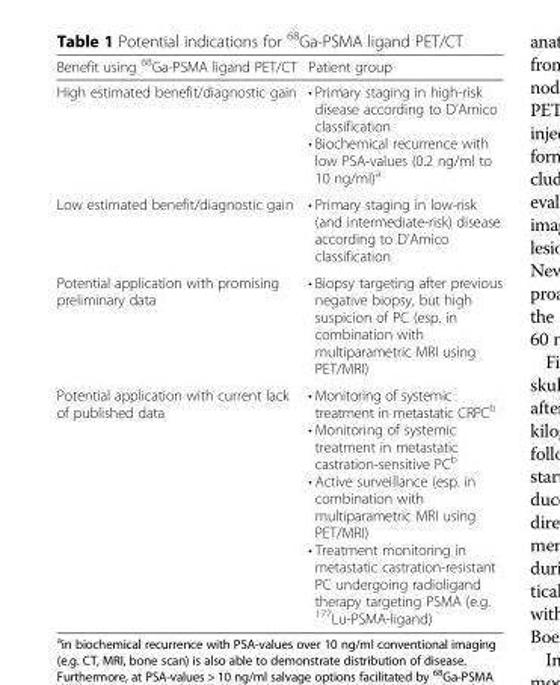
<table><thead><tr><td>Benefit using <sup>68</sup>Ga-PSMA ligand PET/CT</td><td>Patient group</td></tr></thead><tbody><tr><td>High estimated benefit/diagnostic gain</td><td>• Primary staging in high-risk disease according to D’Amico classification • Biochemical recurrence with low PSA-values (0.2 ng/ml to 10 ng/ml)<sup>a</sup></td></tr><tr><td>Low estimated benefit/diagnostic gain</td><td>• Primary staging in low-risk (and intermediate-risk) disease according to D’Amico classification</td></tr><tr><td>Potential application with promising preliminary data</td><td>• Biopsy targeting after previous negative biopsy, but high suspicion of PC (esp. in combination with multiparametric MRI using PET/MRI)</td></tr><tr><td>Potential application with current lack of published data</td><td>• Monitoring of systemic treatment in metastatic CRPC<sup>b</sup> • Monitoring of systemic treatment in metastatic castration-sensitive PC<sup>b</sup> • Active surveillance (esp. in combination with multiparametric MRI using PET/MRI) • Treatment monitoring in metastatic castration-resistant PC undergoing radioligand therapy targeting PSMA (e.g. <sup>177</sup>Lu-PSMA-ligand)</td></tr></tbody></table>